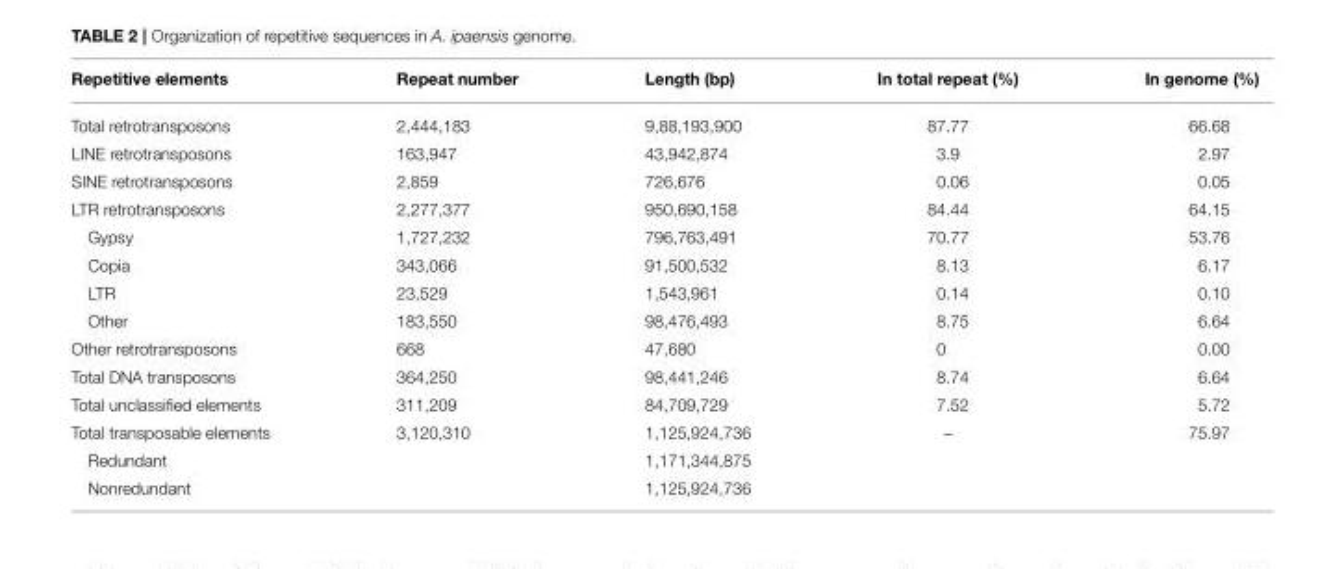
<table><thead><tr><td>Repetitive elements</td><td>Repeat number</td><td>Length (bp)</td><td>In total repeat (%)</td><td>In genome (%)</td></tr></thead><tbody><tr><td>Total retrotransposons</td><td>2,444,183</td><td>9,88,193,900</td><td>87.77</td><td>66.68</td></tr><tr><td>LINE retrotransposons</td><td>163,947</td><td>43,942,874</td><td>3.9</td><td>2.97</td></tr><tr><td>SINE retrotransposons</td><td>2,859</td><td>726,676</td><td>0.06</td><td>0.05</td></tr><tr><td>LTR retrotransposons</td><td>2,277,377</td><td>950,690,158</td><td>84.44</td><td>64.15</td></tr><tr><td>Gypsy</td><td>1,727,232</td><td>796,763,491</td><td>70.77</td><td>53.76</td></tr><tr><td>Copia</td><td>343,066</td><td>91,500,532</td><td>8.13</td><td>6.17</td></tr><tr><td>LTR</td><td>23,529</td><td>1,543,961</td><td>0.14</td><td>0.10</td></tr><tr><td>Other</td><td>183,550</td><td>98,476,493</td><td>8.75</td><td>6.64</td></tr><tr><td>Other retrotransposons</td><td>668</td><td>47,680</td><td>0</td><td>0.00</td></tr><tr><td>Total DNA transposons</td><td>364,250</td><td>98,441,246</td><td>8.74</td><td>6.64</td></tr><tr><td>Total unclassified elements</td><td>311,209</td><td>84,709,729</td><td>7.52</td><td>5.72</td></tr><tr><td>Total transposable elements</td><td>3,120,310</td><td>1,125,924,736</td><td>–</td><td>75.97</td></tr><tr><td>Redundant</td><td></td><td>1,171,344,875</td><td></td><td></td></tr><tr><td>Nonredundant</td><td></td><td>1,125,924,736</td><td></td><td></td></tr></tbody></table>